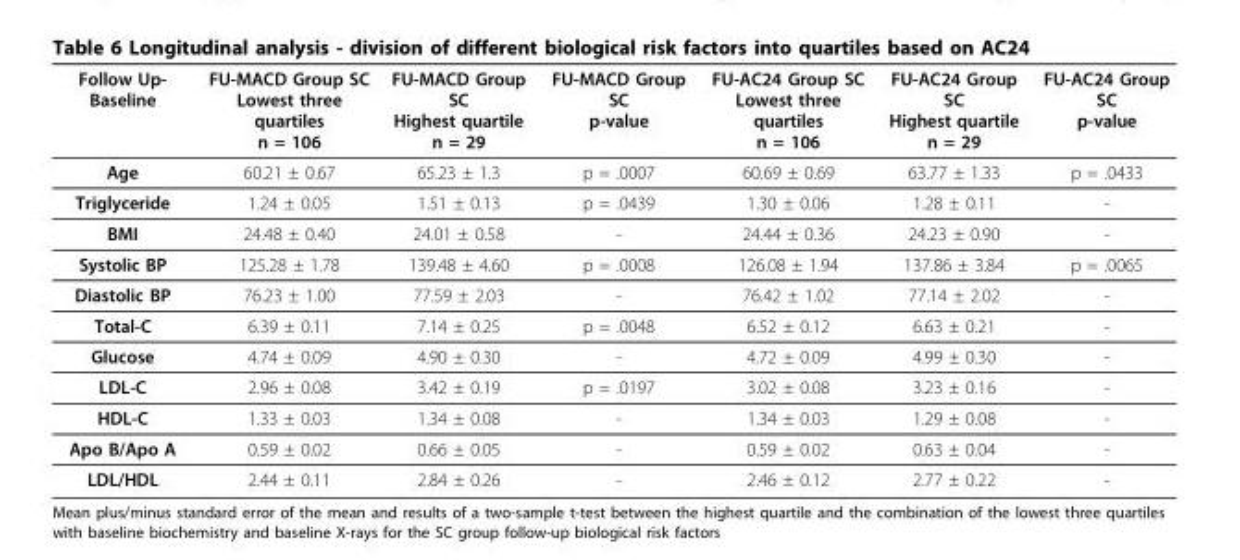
<table><thead><tr><td>Follow Up- Baseline</td><td>FU-MACD Group SC Lowest three quartiles n = 106</td><td>FU-MACD Group SC Highest quartile n = 29</td><td>FU-MACD Group SC p-value</td><td>FU-AC24 Group SC Lowest three quartiles n = 106</td><td>FU-AC24 Group SC Highest quartile n = 29</td><td>FU-AC24 Group SC p-value</td></tr></thead><tbody><tr><td>Age</td><td>60.21 ± 0.67</td><td>65.23 ± 1.3</td><td>p = .0007</td><td>60.69 ± 0.69</td><td>63.77 ± 1.33</td><td>p = .0433</td></tr><tr><td>Triglyceride</td><td>1.24 ± 0.05</td><td>1.51 ± 0.13</td><td>p = .0439</td><td>1.30 ± 0.06</td><td>1.28 ± 0.11</td><td>-</td></tr><tr><td>BMI</td><td>24.48 ± 0.40</td><td>24.01 ± 0.58</td><td>-</td><td>24.44 ± 0.36</td><td>24.23 ± 0.90</td><td>-</td></tr><tr><td>Systolic BP</td><td>125.28 ± 1.78</td><td>139.48 ± 4.60</td><td>p = .0008</td><td>126.08 ± 1.94</td><td>137.86 ± 3.84</td><td>p = .0065</td></tr><tr><td>Diastolic BP</td><td>76.23 ± 1.00</td><td>77.59 ± 2.03</td><td>-</td><td>76.42 ± 1.02</td><td>77.14 ± 2.02</td><td>-</td></tr><tr><td>Total-C</td><td>6.39 ± 0.11</td><td>7.14 ± 0.25</td><td>p = .0048</td><td>6.52 ± 0.12</td><td>6.63 ± 0.21</td><td>-</td></tr><tr><td>Glucose</td><td>4.74 ± 0.09</td><td>4.90 ± 0.30</td><td>-</td><td>4.72 ± 0.09</td><td>4.99 ± 0.30</td><td>-</td></tr><tr><td>LDL-C</td><td>2.96 ± 0.08</td><td>3.42 ± 0.19</td><td>p = .0197</td><td>3.02 ± 0.08</td><td>3.23 ± 0.16</td><td>-</td></tr><tr><td>HDL-C</td><td>1.33 ± 0.03</td><td>1.34 ± 0.08</td><td>-</td><td>1.34 ± 0.03</td><td>1.29 ± 0.08</td><td>-</td></tr><tr><td>Apo B/Apo A</td><td>0.59 ± 0.02</td><td>0.66 ± 0.05</td><td>-</td><td>0.59 ± 0.02</td><td>0.63 ± 0.04</td><td>-</td></tr><tr><td>LDL/HDL</td><td>2.44 ± 0.11</td><td>2.84 ± 0.26</td><td>-</td><td>2.46 ± 0.12</td><td>2.77 ± 0.22</td><td>-</td></tr></tbody></table>